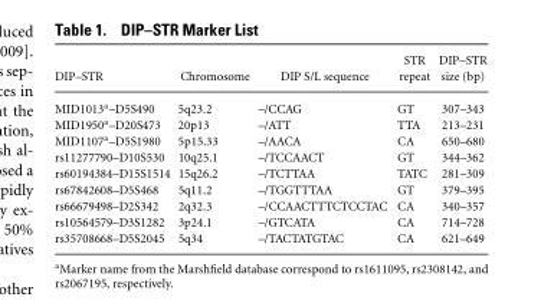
<table><thead><tr><td>DIP–STR</td><td>Chromosome</td><td>DIP S/L sequence</td><td>STR repeat</td><td>DIP–STR size (bp)</td></tr></thead><tbody><tr><td>MID1013<sup>a</sup>–D5S490</td><td>5q23.2</td><td>–/CCAG</td><td>GT</td><td>307–343</td></tr><tr><td>MID1950<sup>a</sup>–D20S473</td><td>20p13</td><td>–/ATT</td><td>TTA</td><td>213–231</td></tr><tr><td>MID1107<sup>a</sup>–D5S1980</td><td>5p15.33</td><td>–/AACA</td><td>CA</td><td>650–680</td></tr><tr><td>rs11277790–D10S530</td><td>10q25.1</td><td>–/TCCAACT</td><td>GT</td><td>344–362</td></tr><tr><td>rs60194384–D15S1514</td><td>15q26.2</td><td>–/TCTTAA</td><td>TATC</td><td>281–309</td></tr><tr><td>rs67842608–D5S468</td><td>5q11.2</td><td>–/TGGTTTAA</td><td>GT</td><td>379–395</td></tr><tr><td>rs66679498–D2S342</td><td>2q32.3</td><td>–/CCAACTTTCTCCTAC</td><td>CA</td><td>340–357</td></tr><tr><td>rs10564579–D3S1282</td><td>3p24.1</td><td>–/GTCATA</td><td>CA</td><td>714–728</td></tr><tr><td>rs35708668–D5S2045</td><td>5q34</td><td>–/TACTATGTAC</td><td>CA</td><td>621–649</td></tr></tbody></table>